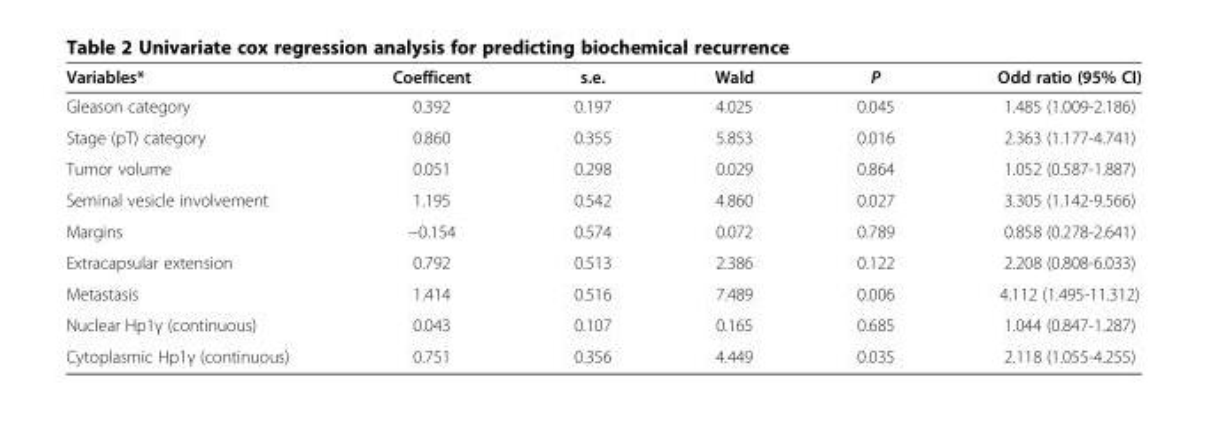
<table><thead><tr><td>Variables*</td><td>Coefficent</td><td>s.e.</td><td>Wald</td><td>P</td><td>Odd ratio (95% CI)</td></tr></thead><tbody><tr><td>Gleason category</td><td>0.392</td><td>0.197</td><td>4.025</td><td>0.045</td><td>1.485 (1.009-2.186)</td></tr><tr><td>Stage (pT) category</td><td>0.860</td><td>0.355</td><td>5.853</td><td>0.016</td><td>2.363 (1.177-4.741)</td></tr><tr><td>Tumor volume</td><td>0.051</td><td>0.298</td><td>0.029</td><td>0.864</td><td>1.052 (0.587-1.887)</td></tr><tr><td>Seminal vesicle involvement</td><td>1.195</td><td>0.542</td><td>4.860</td><td>0.027</td><td>3.305 (1.142-9.566)</td></tr><tr><td>Margins</td><td>−0.154</td><td>0.574</td><td>0.072</td><td>0.789</td><td>0.858 (0.278-2.641)</td></tr><tr><td>Extracapsular extension</td><td>0.792</td><td>0.513</td><td>2.386</td><td>0.122</td><td>2.208 (0.808-6.033)</td></tr><tr><td>Metastasis</td><td>1.414</td><td>0.516</td><td>7.489</td><td>0.006</td><td>4.112 (1.495-11.312)</td></tr><tr><td>Nuclear Hp1γ (continuous)</td><td>0.043</td><td>0.107</td><td>0.165</td><td>0.685</td><td>1.044 (0.847-1.287)</td></tr><tr><td>Cytoplasmic Hp1γ (continuous)</td><td>0.751</td><td>0.356</td><td>4.449</td><td>0.035</td><td>2.118 (1.055-4.255)</td></tr></tbody></table>